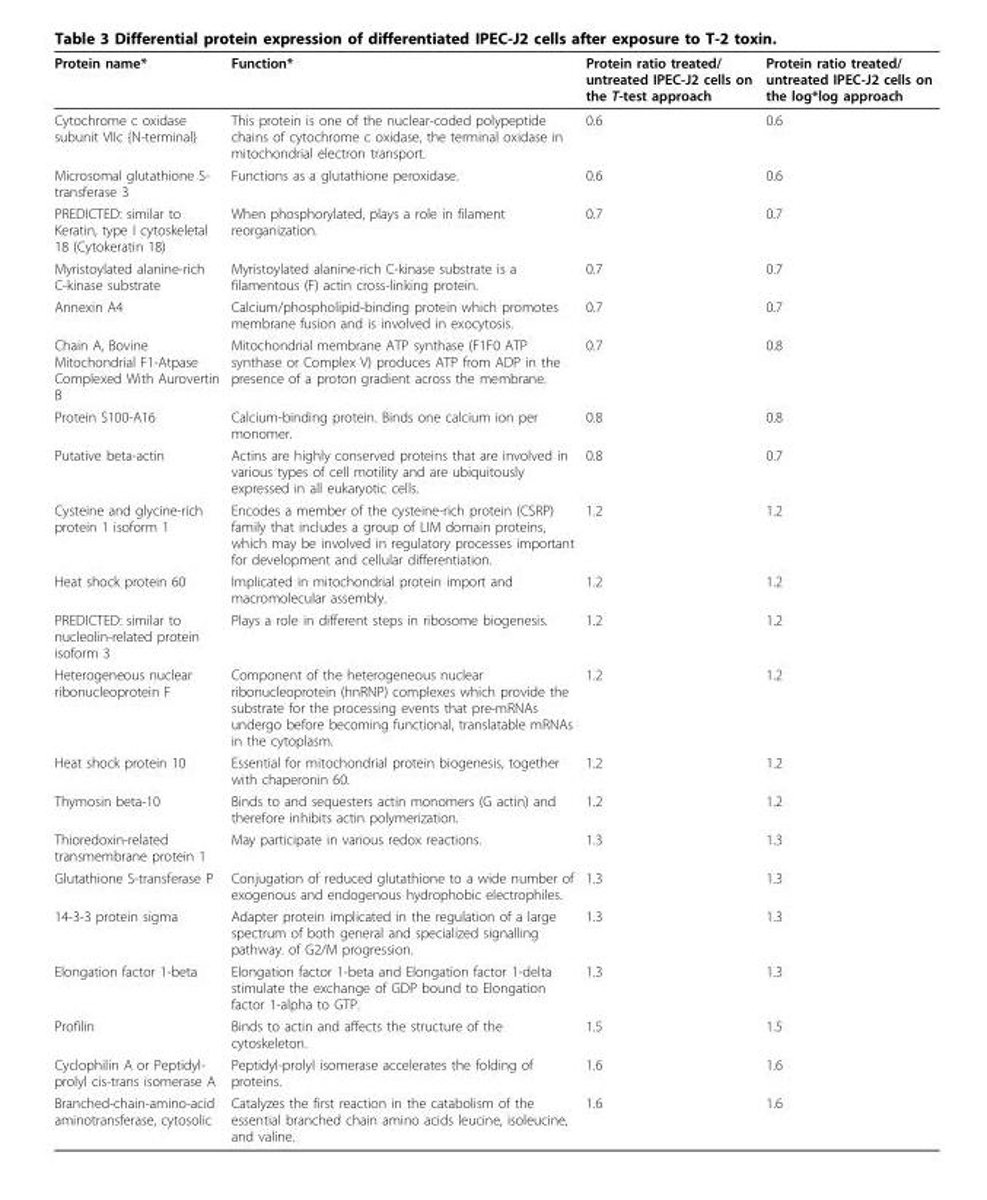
<table><thead><tr><td>Protein name*</td><td>Function*</td><td>Protein ratio treated/ untreated IPEC-J2 cells on the T-test approach</td><td>Protein ratio treated/ untreated IPEC-J2 cells on the log*log approach</td></tr></thead><tbody><tr><td>Cytochrome c oxidase subunit VIIc {N-terminal}</td><td>This protein is one of the nuclear-coded polypeptide chains of cytochrome c oxidase, the terminal oxidase in mitochondrial electron transport.</td><td>0.6</td><td>0.6</td></tr><tr><td>Microsomal glutathione S- transferase 3</td><td>Functions as a glutathione peroxidase.</td><td>0.6</td><td>0.6</td></tr><tr><td>PREDICTED: similar to Keratin, type I cytoskeletal 18 (Cytokeratin 18)</td><td>When phosphorylated, plays a role in filament reorganization.</td><td>0.7</td><td>0.7</td></tr><tr><td>Myristoylated alanine-rich C-kinase substrate</td><td>Myristoylated alanine-rich C-kinase substrate is a filamentous (F) actin cross-linking protein.</td><td>0.7</td><td>0.7</td></tr><tr><td>Annexin A4</td><td>Calcium/phospholipid-binding protein which promotes membrane fusion and is involved in exocytosis.</td><td>0.7</td><td>0.7</td></tr><tr><td>Chain A, Bovine Mitochondrial F1-Atpase Complexed With Aurovertin B</td><td>Mitochondrial membrane ATP synthase (F1F0 ATP synthase or Complex V) produces ATP from ADP in the presence of a proton gradient across the membrane.</td><td>0.7</td><td>0.8</td></tr><tr><td>Protein S100-A16</td><td>Calcium-binding protein. Binds one calcium ion per monomer.</td><td>0.8</td><td>0.8</td></tr><tr><td>Putative beta-actin</td><td>Actins are highly conserved proteins that are involved in various types of cell motility and are ubiquitously expressed in all eukaryotic cells.</td><td>0.8</td><td>0.7</td></tr><tr><td>Cysteine and glycine-rich protein 1 isoform 1</td><td>Encodes a member of the cysteine-rich protein (CSRP) family that includes a group of LIM domain proteins, which may be involved in regulatory processes important for development and cellular differentiation.</td><td>1.2</td><td>1.2</td></tr><tr><td>Heat shock protein 60</td><td>Implicated in mitochondrial protein import and macromolecular assembly.</td><td>1.2</td><td>1.2</td></tr><tr><td>PREDICTED: similar to nucleolin-related protein isoform 3</td><td>Plays a role in different steps in ribosome biogenesis.</td><td>1.2</td><td>1.2</td></tr><tr><td>Heterogeneous nuclear ribonucleoprotein F</td><td>Component of the heterogeneous nuclear ribonucleoprotein (hnRNP) complexes which provide the substrate for the processing events that pre-mRNAs undergo before becoming functional, translatable mRNAs in the cytoplasm.</td><td>1.2</td><td>1.2</td></tr><tr><td>Heat shock protein 10</td><td>Essential for mitochondrial protein biogenesis, together with chaperonin 60.</td><td>1.2</td><td>1.2</td></tr><tr><td>Thymosin beta-10</td><td>Binds to and sequesters actin monomers (G actin) and therefore inhibits actin polymerization.</td><td>1.2</td><td>1.2</td></tr><tr><td>Thioredoxin-related transmembrane protein 1</td><td>May participate in various redox reactions.</td><td>1.3</td><td>1.3</td></tr><tr><td>Glutathione S-transferase P</td><td>Conjugation of reduced glutathione to a wide number of exogenous and endogenous hydrophobic electrophiles.</td><td>1.3</td><td>1.3</td></tr><tr><td>14-3-3 protein sigma</td><td>Adapter protein implicated in the regulation of a large spectrum of both general and specialized signalling pathway. of G2/M progression.</td><td>1.3</td><td>1.3</td></tr><tr><td>Elongation factor 1-beta</td><td>Elongation factor 1-beta and Elongation factor 1-delta stimulate the exchange of GDP bound to Elongation factor 1-alpha to GTP.</td><td>1.3</td><td>1.3</td></tr><tr><td>Profilin</td><td>Binds to actin and affects the structure of the cytoskeleton.</td><td>1.5</td><td>1.5</td></tr><tr><td>Cyclophilin A or Peptidyl- prolyl cis-trans isomerase A</td><td>Peptidyl-prolyl isomerase accelerates the folding of proteins.</td><td>1.6</td><td>1.6</td></tr><tr><td>Branched-chain-amino-acid aminotransferase, cytosolic</td><td>Catalyzes the first reaction in the catabolism of the essential branched chain amino acids leucine, isoleucine, and valine.</td><td>1.6</td><td>1.6</td></tr></tbody></table>